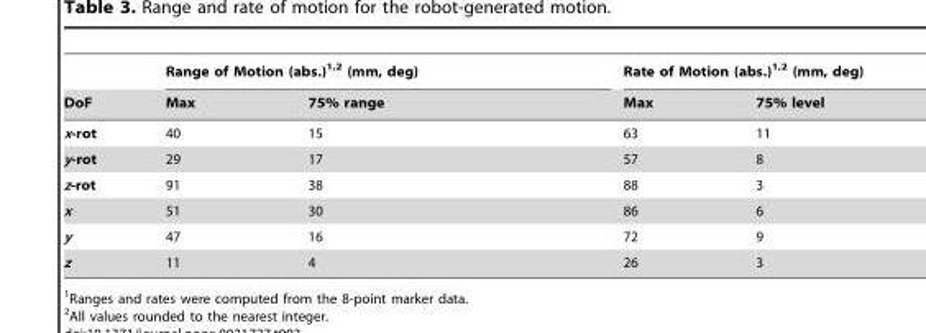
<table><thead><tr><td rowspan="2">DoF</td><td colspan="2">Range of Motion (abs.)<sup>1,2</sup> (mm, deg)</td><td colspan="2">Rate of Motion (abs.)<sup>1,2</sup> (mm, deg)</td></tr><tr><td>Max</td><td>75% range</td><td>Max</td><td>75% level</td></tr></thead><tbody><tr><td>x-rot</td><td>40</td><td>15</td><td>63</td><td>11</td></tr><tr><td>y-rot</td><td>29</td><td>17</td><td>57</td><td>8</td></tr><tr><td>z-rot</td><td>91</td><td>38</td><td>88</td><td>3</td></tr><tr><td>x</td><td>51</td><td>30</td><td>86</td><td>6</td></tr><tr><td>y</td><td>47</td><td>16</td><td>72</td><td>9</td></tr><tr><td>z</td><td>11</td><td>4</td><td>26</td><td>3</td></tr></tbody></table>